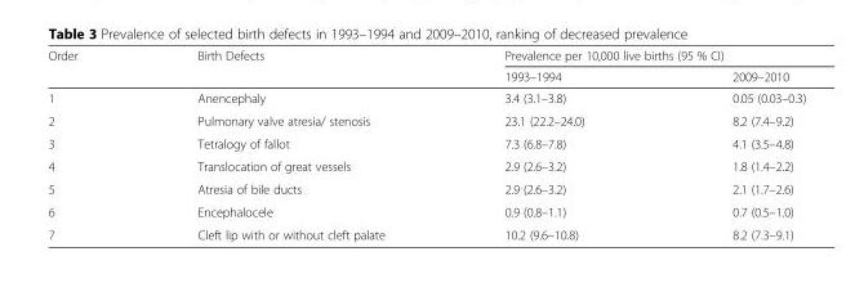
<table><thead><tr><td rowspan="2">Order</td><td rowspan="2">Birth Defects</td><td colspan="2">Prevalence per 10,000 live births (95 % CI)</td></tr><tr><td>1993–1994</td><td>2009–2010</td></tr></thead><tbody><tr><td>1</td><td>Anencephaly</td><td>3.4 (3.1–3.8)</td><td>0.05 (0.03–0.3)</td></tr><tr><td>2</td><td>Pulmonary valve atresia/ stenosis</td><td>23.1 (22.2–24.0)</td><td>8.2 (7.4–9.2)</td></tr><tr><td>3</td><td>Tetralogy of fallot</td><td>7.3 (6.8–7.8)</td><td>4.1 (3.5–4.8)</td></tr><tr><td>4</td><td>Translocation of great vessels</td><td>2.9 (2.6–3.2)</td><td>1.8 (1.4–2.2)</td></tr><tr><td>5</td><td>Atresia of bile ducts</td><td>2.9 (2.6–3.2)</td><td>2.1 (1.7–2.6)</td></tr><tr><td>6</td><td>Encephalocele</td><td>0.9 (0.8–1.1)</td><td>0.7 (0.5–1.0)</td></tr><tr><td>7</td><td>Cleft lip with or without cleft palate</td><td>10.2 (9.6–10.8)</td><td>8.2 (7.3–9.1)</td></tr></tbody></table>